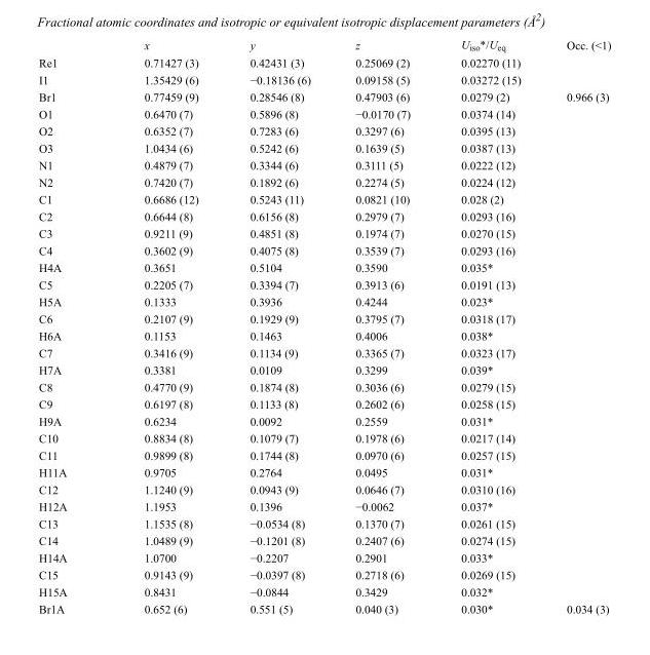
<table><thead><tr><td></td><td>x</td><td>y</td><td>z</td><td>U<sub>iso</sub>*/U<sub>eq</sub></td><td>Occ. (&lt;1)</td></tr></thead><tbody><tr><td>Re1</td><td>0.71427 (3)</td><td>0.42431 (3)</td><td>0.25069 (2)</td><td>0.02270 (11)</td><td></td></tr><tr><td>I1</td><td>1.35429 (6)</td><td>−0.18136 (6)</td><td>0.09158 (5)</td><td>0.03272 (15)</td><td></td></tr><tr><td>Br1</td><td>0.77459 (9)</td><td>0.28546 (8)</td><td>0.47903 (6)</td><td>0.0279 (2)</td><td>0.966 (3)</td></tr><tr><td>O1</td><td>0.6470 (7)</td><td>0.5896 (8)</td><td>−0.0170 (7)</td><td>0.0374 (14)</td><td></td></tr><tr><td>O2</td><td>0.6352 (7)</td><td>0.7283 (6)</td><td>0.3297 (6)</td><td>0.0395 (13)</td><td></td></tr><tr><td>O3</td><td>1.0434 (6)</td><td>0.5242 (6)</td><td>0.1639 (5)</td><td>0.0387 (13)</td><td></td></tr><tr><td>N1</td><td>0.4879 (7)</td><td>0.3344 (6)</td><td>0.3111 (5)</td><td>0.0222 (12)</td><td></td></tr><tr><td>N2</td><td>0.7420 (7)</td><td>0.1892 (6)</td><td>0.2274 (5)</td><td>0.0224 (12)</td><td></td></tr><tr><td>C1</td><td>0.6686 (12)</td><td>0.5243 (11)</td><td>0.0821 (10)</td><td>0.028 (2)</td><td></td></tr><tr><td>C2</td><td>0.6644 (8)</td><td>0.6156 (8)</td><td>0.2979 (7)</td><td>0.0293 (16)</td><td></td></tr><tr><td>C3</td><td>0.9211 (9)</td><td>0.4851 (8)</td><td>0.1974 (7)</td><td>0.0270 (15)</td><td></td></tr><tr><td>C4</td><td>0.3602 (9)</td><td>0.4075 (8)</td><td>0.3539 (7)</td><td>0.0293 (16)</td><td></td></tr><tr><td>H4A</td><td>0.3651</td><td>0.5104</td><td>0.3590</td><td>0.035*</td><td></td></tr><tr><td>C5</td><td>0.2205 (7)</td><td>0.3394 (7)</td><td>0.3913 (6)</td><td>0.0191 (13)</td><td></td></tr><tr><td>H5A</td><td>0.1333</td><td>0.3936</td><td>0.4244</td><td>0.023*</td><td></td></tr><tr><td>C6</td><td>0.2107 (9)</td><td>0.1929 (9)</td><td>0.3795 (7)</td><td>0.0318 (17)</td><td></td></tr><tr><td>H6A</td><td>0.1153</td><td>0.1463</td><td>0.4006</td><td>0.038*</td><td></td></tr><tr><td>C7</td><td>0.3416 (9)</td><td>0.1134 (9)</td><td>0.3365 (7)</td><td>0.0323 (17)</td><td></td></tr><tr><td>H7A</td><td>0.3381</td><td>0.0109</td><td>0.3299</td><td>0.039*</td><td></td></tr><tr><td>C8</td><td>0.4770 (9)</td><td>0.1874 (8)</td><td>0.3036 (6)</td><td>0.0279 (15)</td><td></td></tr><tr><td>C9</td><td>0.6197 (8)</td><td>0.1133 (8)</td><td>0.2602 (6)</td><td>0.0258 (15)</td><td></td></tr><tr><td>H9A</td><td>0.6234</td><td>0.0092</td><td>0.2559</td><td>0.031*</td><td></td></tr><tr><td>C10</td><td>0.8834 (8)</td><td>0.1079 (7)</td><td>0.1978 (6)</td><td>0.0217 (14)</td><td></td></tr><tr><td>C11</td><td>0.9899 (8)</td><td>0.1744 (8)</td><td>0.0970 (6)</td><td>0.0257 (15)</td><td></td></tr><tr><td>H11A</td><td>0.9705</td><td>0.2764</td><td>0.0495</td><td>0.031*</td><td></td></tr><tr><td>C12</td><td>1.1240 (9)</td><td>0.0943 (9)</td><td>0.0646 (7)</td><td>0.0310 (16)</td><td></td></tr><tr><td>H12A</td><td>1.1953</td><td>0.1396</td><td>−0.0062</td><td>0.037*</td><td></td></tr><tr><td>C13</td><td>1.1535 (8)</td><td>−0.0534 (8)</td><td>0.1370 (7)</td><td>0.0261 (15)</td><td></td></tr><tr><td>C14</td><td>1.0489 (9)</td><td>−0.1201 (8)</td><td>0.2407 (6)</td><td>0.0274 (15)</td><td></td></tr><tr><td>H14A</td><td>1.0700</td><td>−0.2207</td><td>0.2901</td><td>0.033*</td><td></td></tr><tr><td>C15</td><td>0.9143 (9)</td><td>−0.0397 (8)</td><td>0.2718 (6)</td><td>0.0269 (15)</td><td></td></tr><tr><td>H15A</td><td>0.8431</td><td>−0.0844</td><td>0.3429</td><td>0.032*</td><td></td></tr><tr><td>Br1A</td><td>0.652 (6)</td><td>0.551 (5)</td><td>0.040 (3)</td><td>0.030*</td><td>0.034 (3)</td></tr></tbody></table>